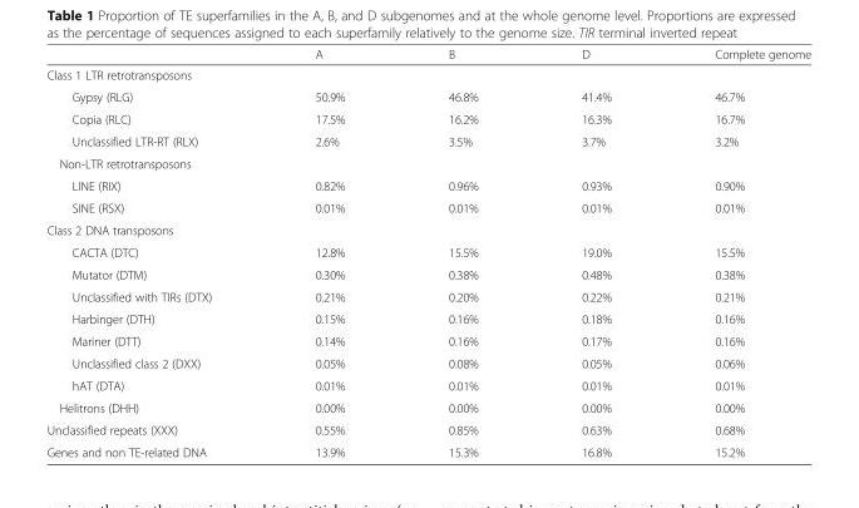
<table><thead><tr><td></td><td>A</td><td>B</td><td>D</td><td>Complete genome</td></tr></thead><tbody><tr><td colspan="5">Class 1 LTR retrotransposons</td></tr><tr><td>Gypsy (RLG)</td><td>50.9%</td><td>46.8%</td><td>41.4%</td><td>46.7%</td></tr><tr><td>Copia (RLC)</td><td>17.5%</td><td>16.2%</td><td>16.3%</td><td>16.7%</td></tr><tr><td>Unclassified LTR-RT (RLX)</td><td>2.6%</td><td>3.5%</td><td>3.7%</td><td>3.2%</td></tr><tr><td colspan="5">Non-LTR retrotransposons</td></tr><tr><td>LINE (RIX)</td><td>0.82%</td><td>0.96%</td><td>0.93%</td><td>0.90%</td></tr><tr><td>SINE (RSX)</td><td>0.01%</td><td>0.01%</td><td>0.01%</td><td>0.01%</td></tr><tr><td colspan="5">Class 2 DNA transposons</td></tr><tr><td>CACTA (DTC)</td><td>12.8%</td><td>15.5%</td><td>19.0%</td><td>15.5%</td></tr><tr><td>Mutator (DTM)</td><td>0.30%</td><td>0.38%</td><td>0.48%</td><td>0.38%</td></tr><tr><td>Unclassified with TIRs (DTX)</td><td>0.21%</td><td>0.20%</td><td>0.22%</td><td>0.21%</td></tr><tr><td>Harbinger (DTH)</td><td>0.15%</td><td>0.16%</td><td>0.18%</td><td>0.16%</td></tr><tr><td>Mariner (DTT)</td><td>0.14%</td><td>0.16%</td><td>0.17%</td><td>0.16%</td></tr><tr><td>Unclassified class 2 (DXX)</td><td>0.05%</td><td>0.08%</td><td>0.05%</td><td>0.06%</td></tr><tr><td>hAT (DTA)</td><td>0.01%</td><td>0.01%</td><td>0.01%</td><td>0.01%</td></tr><tr><td>Helitrons (DHH)</td><td>0.00%</td><td>0.00%</td><td>0.00%</td><td>0.00%</td></tr><tr><td>Unclassified repeats (XXX)</td><td>0.55%</td><td>0.85%</td><td>0.63%</td><td>0.68%</td></tr><tr><td>Genes and non TE-related DNA</td><td>13.9%</td><td>15.3%</td><td>16.8%</td><td>15.2%</td></tr></tbody></table>